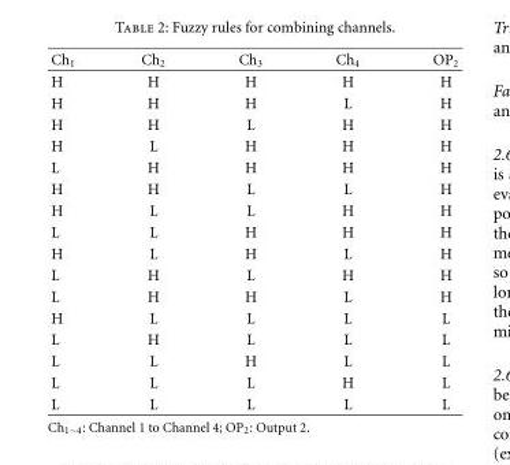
<table><thead><tr><td>Ch<sub>1</sub></td><td>Ch<sub>2</sub></td><td>Ch<sub>3</sub></td><td>Ch<sub>4</sub></td><td>OP<sub>2</sub></td></tr></thead><tbody><tr><td>H</td><td>H</td><td>H</td><td>H</td><td>H</td></tr><tr><td>H</td><td>H</td><td>H</td><td>L</td><td>H</td></tr><tr><td>H</td><td>H</td><td>L</td><td>H</td><td>H</td></tr><tr><td>H</td><td>L</td><td>H</td><td>H</td><td>H</td></tr><tr><td>L</td><td>H</td><td>H</td><td>H</td><td>H</td></tr><tr><td>H</td><td>H</td><td>L</td><td>L</td><td>H</td></tr><tr><td>H</td><td>L</td><td>L</td><td>H</td><td>H</td></tr><tr><td>L</td><td>L</td><td>H</td><td>H</td><td>H</td></tr><tr><td>H</td><td>L</td><td>H</td><td>L</td><td>H</td></tr><tr><td>L</td><td>H</td><td>L</td><td>H</td><td>H</td></tr><tr><td>L</td><td>H</td><td>H</td><td>L</td><td>H</td></tr><tr><td>H</td><td>L</td><td>L</td><td>L</td><td>L</td></tr><tr><td>L</td><td>H</td><td>L</td><td>L</td><td>L</td></tr><tr><td>L</td><td>L</td><td>H</td><td>L</td><td>L</td></tr><tr><td>L</td><td>L</td><td>L</td><td>H</td><td>L</td></tr><tr><td>L</td><td>L</td><td>L</td><td>L</td><td>L</td></tr></tbody></table>